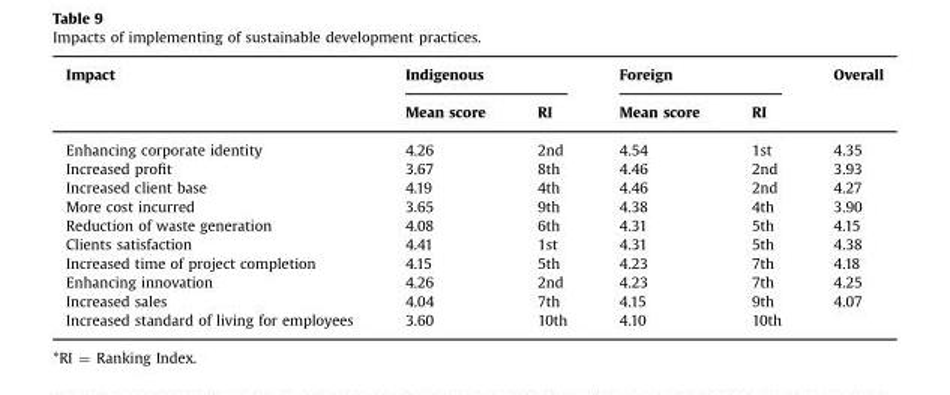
<table><thead><tr><td rowspan="2">Impact</td><td colspan="2">Indigenous</td><td colspan="2">Foreign</td><td rowspan="2">Overall</td></tr><tr><td>Mean score</td><td>RI</td><td>Mean score</td><td>RI</td></tr></thead><tbody><tr><td>Enhancing corporate identity</td><td>4.26</td><td>2nd</td><td>4.54</td><td>1st</td><td>4.35</td></tr><tr><td>Increased profit</td><td>3.67</td><td>8th</td><td>4.46</td><td>2nd</td><td>3.93</td></tr><tr><td>Increased client base</td><td>4.19</td><td>4th</td><td>4.46</td><td>2nd</td><td>4.27</td></tr><tr><td>More cost incurred</td><td>3.65</td><td>9th</td><td>4.38</td><td>4th</td><td>3.90</td></tr><tr><td>Reduction of waste generation</td><td>4.08</td><td>6th</td><td>4.31</td><td>5th</td><td>4.15</td></tr><tr><td>Clients satisfaction</td><td>4.41</td><td>1st</td><td>4.31</td><td>5th</td><td>4.38</td></tr><tr><td>Increased time of project completion</td><td>4.15</td><td>5th</td><td>4.23</td><td>7th</td><td>4.18</td></tr><tr><td>Enhancing innovation</td><td>4.26</td><td>2nd</td><td>4.23</td><td>7th</td><td>4.25</td></tr><tr><td>Increased sales</td><td>4.04</td><td>7th</td><td>4.15</td><td>9th</td><td>4.07</td></tr><tr><td>Increased standard of living for employees</td><td>3.60</td><td>10th</td><td>4.10</td><td>10th</td><td></td></tr></tbody></table>